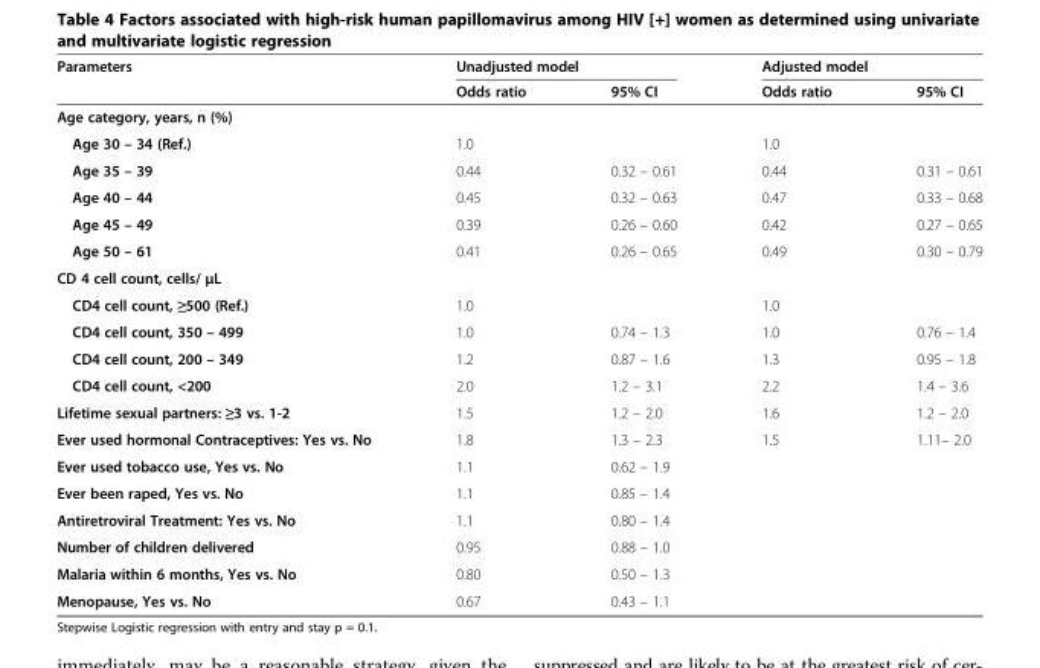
<table><thead><tr><td rowspan="2">Parameters</td><td colspan="2">Unadjusted model</td><td colspan="2">Adjusted model</td></tr><tr><td>Odds ratio</td><td>95% CI</td><td>Odds ratio</td><td>95% CI</td></tr></thead><tbody><tr><td colspan="5">Age category, years, n (%)</td></tr><tr><td>Age 30 – 34 (Ref.)</td><td>1.0</td><td></td><td>1.0</td><td></td></tr><tr><td>Age 35 – 39</td><td>0.44</td><td>0.32 – 0.61</td><td>0.44</td><td>0.31 – 0.61</td></tr><tr><td>Age 40 – 44</td><td>0.45</td><td>0.32 – 0.63</td><td>0.47</td><td>0.33 – 0.68</td></tr><tr><td>Age 45 – 49</td><td>0.39</td><td>0.26 – 0.60</td><td>0.42</td><td>0.27 – 0.65</td></tr><tr><td>Age 50 – 61</td><td>0.41</td><td>0.26 – 0.65</td><td>0.49</td><td>0.30 – 0.79</td></tr><tr><td colspan="5">CD 4 cell count, cells/ μL</td></tr><tr><td>CD4 cell count, ≥500 (Ref.)</td><td>1.0</td><td></td><td>1.0</td><td></td></tr><tr><td>CD4 cell count, 350 – 499</td><td>1.0</td><td>0.74 – 1.3</td><td>1.0</td><td>0.76 – 1.4</td></tr><tr><td>CD4 cell count, 200 – 349</td><td>1.2</td><td>0.87 – 1.6</td><td>1.3</td><td>0.95 – 1.8</td></tr><tr><td>CD4 cell count, &lt;200</td><td>2.0</td><td>1.2 – 3.1</td><td>2.2</td><td>1.4 – 3.6</td></tr><tr><td>Lifetime sexual partners: ≥3 vs. 1-2</td><td>1.5</td><td>1.2 – 2.0</td><td>1.6</td><td>1.2 – 2.0</td></tr><tr><td>Ever used hormonal Contraceptives: Yes vs. No</td><td>1.8</td><td>1.3 – 2.3</td><td>1.5</td><td>1.11– 2.0</td></tr><tr><td>Ever used tobacco use, Yes vs. No</td><td>1.1</td><td>0.62 – 1.9</td><td></td><td></td></tr><tr><td>Ever been raped, Yes vs. No</td><td>1.1</td><td>0.85 – 1.4</td><td></td><td></td></tr><tr><td>Antiretroviral Treatment: Yes vs. No</td><td>1.1</td><td>0.80 – 1.4</td><td></td><td></td></tr><tr><td>Number of children delivered</td><td>0.95</td><td>0.88 – 1.0</td><td></td><td></td></tr><tr><td>Malaria within 6 months, Yes vs. No</td><td>0.80</td><td>0.50 – 1.3</td><td></td><td></td></tr><tr><td>Menopause, Yes vs. No</td><td>0.67</td><td>0.43 – 1.1</td><td></td><td></td></tr></tbody></table>